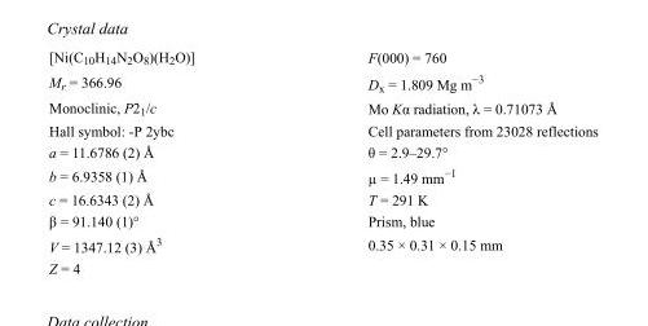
<table><tbody><tr><td>[Ni(C<sub>10</sub>H<sub>14</sub>N<sub>2</sub>O<sub>8</sub>)(H<sub>2</sub>O)]</td><td>F(000) = 760</td></tr><tr><td>M<sub>r</sub> = 366.96</td><td>D<sub>x</sub> = 1.809 Mg m<sup>−3</sup></td></tr><tr><td>Monoclinic, P2<sub>1</sub>/c</td><td>Mo Kα radiation, λ = 0.71073 Å</td></tr><tr><td>Hall symbol: -P 2ybc</td><td>Cell parameters from 23028 reflections</td></tr><tr><td>a = 11.6786 (2) Å</td><td>θ = 2.9–29.7°</td></tr><tr><td>b = 6.9358 (1) Å</td><td>µ = 1.49 mm<sup>−1</sup></td></tr><tr><td>c = 16.6343 (2) Å</td><td>T = 291 K</td></tr><tr><td>β = 91.140 (1)°</td><td>Prism, blue</td></tr><tr><td>V = 1347.12 (3) Å<sup>3</sup></td><td>0.35 × 0.31 × 0.15 mm</td></tr><tr><td>Z = 4</td><td></td></tr></tbody></table>